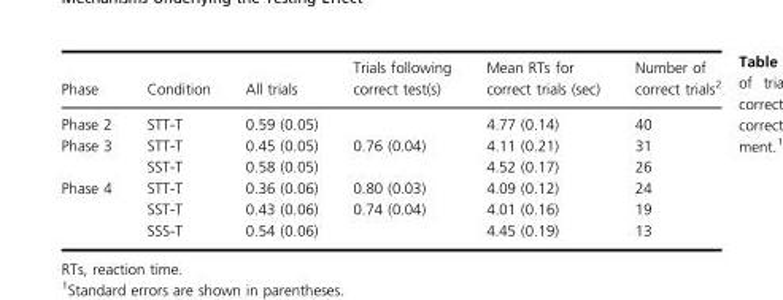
<table><thead><tr><td>Phase</td><td>Condition</td><td>All trials</td><td>Trials following correct test(s)</td><td>Mean RTs for correct trials (sec)</td><td>Number of correct trials2</td></tr></thead><tbody><tr><td>Phase 2</td><td>STT-T</td><td>0.59 (0.05)</td><td></td><td>4.77 (0.14)</td><td>40</td></tr><tr><td rowspan="2">Phase 3</td><td>STT-T</td><td>0.45 (0.05)</td><td>0.76 (0.04)</td><td>4.11 (0.21)</td><td>31</td></tr><tr><td>SST-T</td><td>0.58 (0.05)</td><td></td><td>4.52 (0.17)</td><td>26</td></tr><tr><td rowspan="3">Phase 4</td><td>STT-T</td><td>0.36 (0.06)</td><td>0.80 (0.03)</td><td>4.09 (0.12)</td><td>24</td></tr><tr><td>SST-T</td><td>0.43 (0.06)</td><td>0.74 (0.04)</td><td>4.01 (0.16)</td><td>19</td></tr><tr><td>SSS-T</td><td>0.54 (0.06)</td><td></td><td>4.45 (0.19)</td><td>13</td></tr></tbody></table>